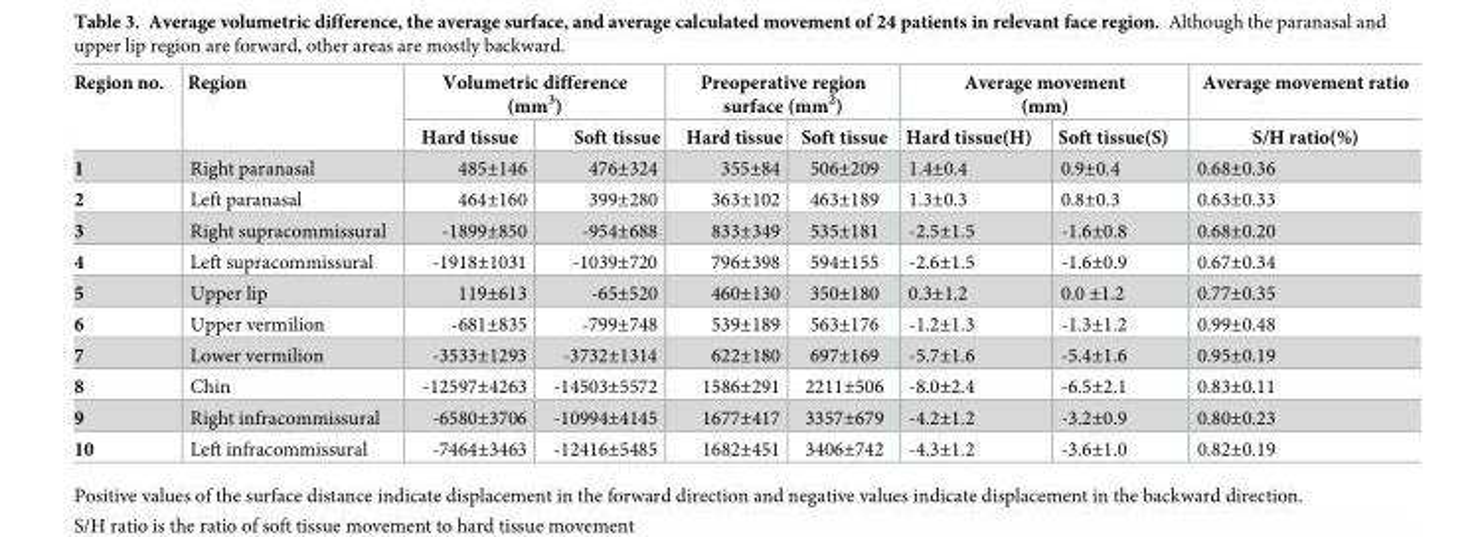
<table><thead><tr><td rowspan="2">Region no.</td><td rowspan="2">Region</td><td colspan="2">Volumetric difference (mm<sup>3</sup>)</td><td colspan="2">Preoperative region surface (mm<sup>2</sup>)</td><td colspan="2">Average movement (mm)</td><td rowspan="2">Average movement ratio S/H ratio(%)</td></tr><tr><td>Hard tissue</td><td>Soft tissue</td><td>Hard tissue</td><td>Soft tissue</td><td>Hard tissue(H)</td><td>Soft tissue(S)</td></tr></thead><tbody><tr><td>1</td><td>Right paranasal</td><td>485±146</td><td>476±324</td><td>355±84</td><td>506±209</td><td>1.4±0.4</td><td>0.9±0.4</td><td>0.68±0.36</td></tr><tr><td>2</td><td>Left paranasal</td><td>464±160</td><td>399±280</td><td>363±102</td><td>463±189</td><td>1.3±0.3</td><td>0.8±0.3</td><td>0.63±0.33</td></tr><tr><td>3</td><td>Right supracommissural</td><td>-1899±850</td><td>-954±688</td><td>833±349</td><td>535±181</td><td>-2.5±1.5</td><td>-1.6±0.8</td><td>0.68±0.20</td></tr><tr><td>4</td><td>Left supracommissural</td><td>-1918±1031</td><td>-1039±720</td><td>796±398</td><td>594±155</td><td>-2.6±1.5</td><td>-1.6±0.9</td><td>0.67±0.34</td></tr><tr><td>5</td><td>Upper lip</td><td>119±613</td><td>-65±520</td><td>460±130</td><td>350±180</td><td>0.3±1.2</td><td>0.0 ±1.2</td><td>0.77±0.35</td></tr><tr><td>6</td><td>Upper vermilion</td><td>-681±835</td><td>-799±748</td><td>539±189</td><td>563±176</td><td>-1.2±1.3</td><td>-1.3±1.2</td><td>0.99±0.48</td></tr><tr><td>7</td><td>Lower vermilion</td><td>-3533±1293</td><td>-3732±1314</td><td>622±180</td><td>697±169</td><td>-5.7±1.6</td><td>-5.4±1.6</td><td>0.95±0.19</td></tr><tr><td>8</td><td>Chin</td><td>-12597±4263</td><td>-14503±5572</td><td>1586±291</td><td>2211±506</td><td>-8.0±2.4</td><td>-6.5±2.1</td><td>0.83±0.11</td></tr><tr><td>9</td><td>Right infracommissural</td><td>-6580±3706</td><td>-10994±4145</td><td>1677±417</td><td>3357±679</td><td>-4.2±1.2</td><td>-3.2±0.9</td><td>0.80±0.23</td></tr><tr><td>10</td><td>Left infracommissural</td><td>-7464±3463</td><td>-12416±5485</td><td>1682±451</td><td>3406±742</td><td>-4.3±1.2</td><td>-3.6±1.0</td><td>0.82±0.19</td></tr></tbody></table>